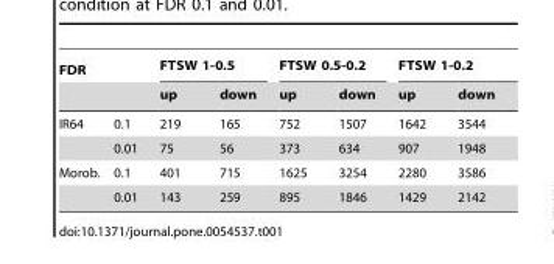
<table><thead><tr><td colspan="2">FDR</td><td colspan="2">FTSW 1-0.5</td><td colspan="2">FTSW 0.5-0.2</td><td colspan="2">FTSW 1-0.2</td></tr><tr><td></td><td></td><td>up</td><td>down</td><td>up</td><td>down</td><td>up</td><td>down</td></tr></thead><tbody><tr><td rowspan="2">IR64</td><td>0.1</td><td>219</td><td>165</td><td>752</td><td>1507</td><td>1642</td><td>3544</td></tr><tr><td>0.01</td><td>75</td><td>56</td><td>373</td><td>634</td><td>907</td><td>1948</td></tr><tr><td rowspan="2">Morob.</td><td>0.1</td><td>401</td><td>715</td><td>1625</td><td>3254</td><td>2280</td><td>3586</td></tr><tr><td>0.01</td><td>143</td><td>259</td><td>895</td><td>1846</td><td>1429</td><td>2142</td></tr></tbody></table>